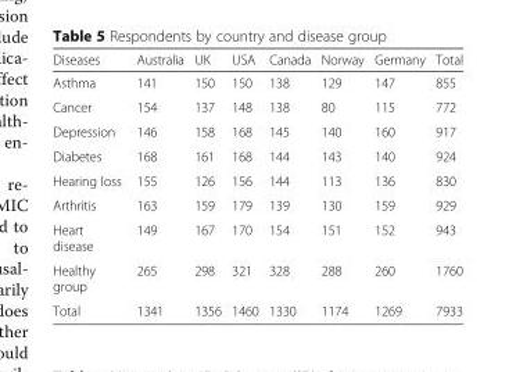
<table><thead><tr><td>Diseases</td><td>Australia</td><td>UK</td><td>USA</td><td>Canada</td><td>Norway</td><td>Germany</td><td>Total</td></tr></thead><tbody><tr><td>Asthma</td><td>141</td><td>150</td><td>150</td><td>138</td><td>129</td><td>147</td><td>855</td></tr><tr><td>Cancer</td><td>154</td><td>137</td><td>148</td><td>138</td><td>80</td><td>115</td><td>772</td></tr><tr><td>Depression</td><td>146</td><td>158</td><td>168</td><td>145</td><td>140</td><td>160</td><td>917</td></tr><tr><td>Diabetes</td><td>168</td><td>161</td><td>168</td><td>144</td><td>143</td><td>140</td><td>924</td></tr><tr><td>Hearing loss</td><td>155</td><td>126</td><td>156</td><td>144</td><td>113</td><td>136</td><td>830</td></tr><tr><td>Arthritis</td><td>163</td><td>159</td><td>179</td><td>139</td><td>130</td><td>159</td><td>929</td></tr><tr><td>Heart disease</td><td>149</td><td>167</td><td>170</td><td>154</td><td>151</td><td>152</td><td>943</td></tr><tr><td>Healthy group</td><td>265</td><td>298</td><td>321</td><td>328</td><td>288</td><td>260</td><td>1760</td></tr><tr><td>Total</td><td>1341</td><td>1356</td><td>1460</td><td>1330</td><td>1174</td><td>1269</td><td>7933</td></tr></tbody></table>